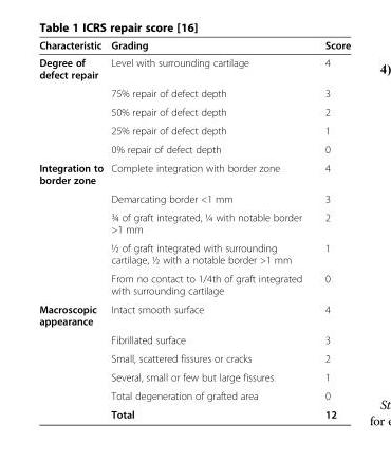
<table><thead><tr><td>Characteristic</td><td>Grading</td><td>Score</td></tr></thead><tbody><tr><td rowspan="5">Degree of defect repair</td><td>Level with surrounding cartilage</td><td>4</td></tr><tr><td>75% repair of defect depth</td><td>3</td></tr><tr><td>50% repair of defect depth</td><td>2</td></tr><tr><td>25% repair of defect depth</td><td>1</td></tr><tr><td>0% repair of defect depth</td><td>0</td></tr><tr><td rowspan="5">Integration to border zone</td><td>Complete integration with border zone</td><td>4</td></tr><tr><td>Demarcating border &lt;1 mm</td><td>3</td></tr><tr><td>¾ of graft integrated, ¼ with notable border &gt;1 mm</td><td>2</td></tr><tr><td>½ of graft integrated with surrounding cartilage, ½ with a notable border &gt;1 mm</td><td>1</td></tr><tr><td>From no contact to 1/4th of graft integrated with surrounding cartilage</td><td>0</td></tr><tr><td rowspan="6">Macroscopic appearance</td><td>Intact smooth surface</td><td>4</td></tr><tr><td>Fibrillated surface</td><td>3</td></tr><tr><td>Small, scattered fissures or cracks</td><td>2</td></tr><tr><td>Several, small or few but large fissures</td><td>1</td></tr><tr><td>Total degeneration of grafted area</td><td>0</td></tr><tr><td>Total</td><td>12</td></tr></tbody></table>